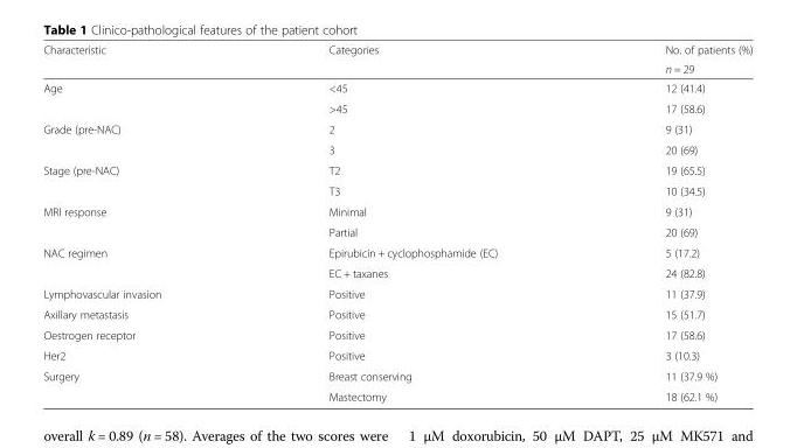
<table><thead><tr><td rowspan="2">Characteristic</td><td rowspan="2">Categories</td><td rowspan="2">No. of patients (%) n = 29</td></tr><tr></tr></thead><tbody><tr><td rowspan="2">Age</td><td>&lt;45</td><td>12 (41.4)</td></tr><tr><td>&gt;45</td><td>17 (58.6)</td></tr><tr><td rowspan="2">Grade (pre-NAC)</td><td>2</td><td>9 (31)</td></tr><tr><td>3</td><td>20 (69)</td></tr><tr><td rowspan="2">Stage (pre-NAC)</td><td>T2</td><td>19 (65.5)</td></tr><tr><td>T3</td><td>10 (34.5)</td></tr><tr><td rowspan="2">MRI response</td><td>Minimal</td><td>9 (31)</td></tr><tr><td>Partial</td><td>20 (69)</td></tr><tr><td rowspan="2">NAC regimen</td><td>Epirubicin + cyclophosphamide (EC)</td><td>5 (17.2)</td></tr><tr><td>EC + taxanes</td><td>24 (82.8)</td></tr><tr><td>Lymphovascular invasion</td><td>Positive</td><td>11 (37.9)</td></tr><tr><td>Axillary metastasis</td><td>Positive</td><td>15 (51.7)</td></tr><tr><td>Oestrogen receptor</td><td>Positive</td><td>17 (58.6)</td></tr><tr><td>Her2</td><td>Positive</td><td>3 (10.3)</td></tr><tr><td rowspan="2">Surgery</td><td>Breast conserving</td><td>11 (37.9 %)</td></tr><tr><td>Mastectomy</td><td>18 (62.1 %)</td></tr></tbody></table>